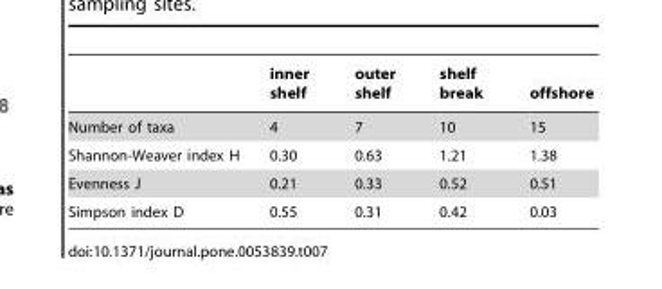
<table><thead><tr><td></td><td>inner shelf</td><td>outer shelf</td><td>shelf break</td><td>offshore</td></tr></thead><tbody><tr><td>Number of taxa</td><td>4</td><td>7</td><td>10</td><td>15</td></tr><tr><td>Shannon-Weaver index H</td><td>0.30</td><td>0.63</td><td>1.21</td><td>1.38</td></tr><tr><td>Evenness J</td><td>0.21</td><td>0.33</td><td>0.52</td><td>0.51</td></tr><tr><td>Simpson index D</td><td>0.55</td><td>0.31</td><td>0.42</td><td>0.03</td></tr></tbody></table>